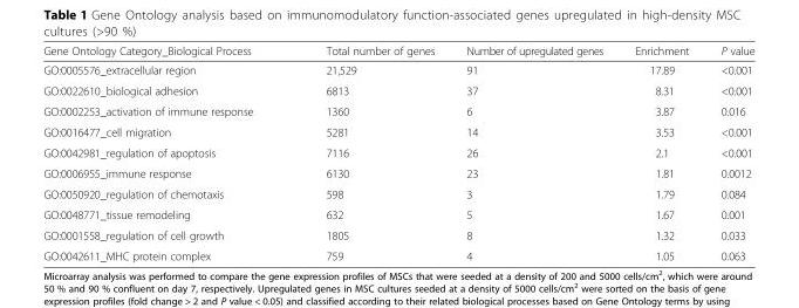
<table><thead><tr><td>Gene Ontology Category_Biological Process</td><td>Total number of genes</td><td>Number of upregulated genes</td><td>Enrichment</td><td>P value</td></tr></thead><tbody><tr><td>GO:0005576_extracellular region</td><td>21,529</td><td>91</td><td>17.89</td><td>&lt;0.001</td></tr><tr><td>GO:0022610_biological adhesion</td><td>6813</td><td>37</td><td>8.31</td><td>&lt;0.001</td></tr><tr><td>GO:0002253_activation of immune response</td><td>1360</td><td>6</td><td>3.87</td><td>0.016</td></tr><tr><td>GO:0016477_cell migration</td><td>5281</td><td>14</td><td>3.53</td><td>&lt;0.001</td></tr><tr><td>GO:0042981_regulation of apoptosis</td><td>7116</td><td>26</td><td>2.1</td><td>&lt;0.001</td></tr><tr><td>GO:0006955_immune response</td><td>6130</td><td>23</td><td>1.81</td><td>0.0012</td></tr><tr><td>GO:0050920_regulation of chemotaxis</td><td>598</td><td>3</td><td>1.79</td><td>0.084</td></tr><tr><td>GO:0048771_tissue remodeling</td><td>632</td><td>5</td><td>1.67</td><td>0.001</td></tr><tr><td>GO:0001558_regulation of cell growth</td><td>1805</td><td>8</td><td>1.32</td><td>0.033</td></tr><tr><td>GO:0042611_MHC protein complex</td><td>759</td><td>4</td><td>1.05</td><td>0.063</td></tr></tbody></table>